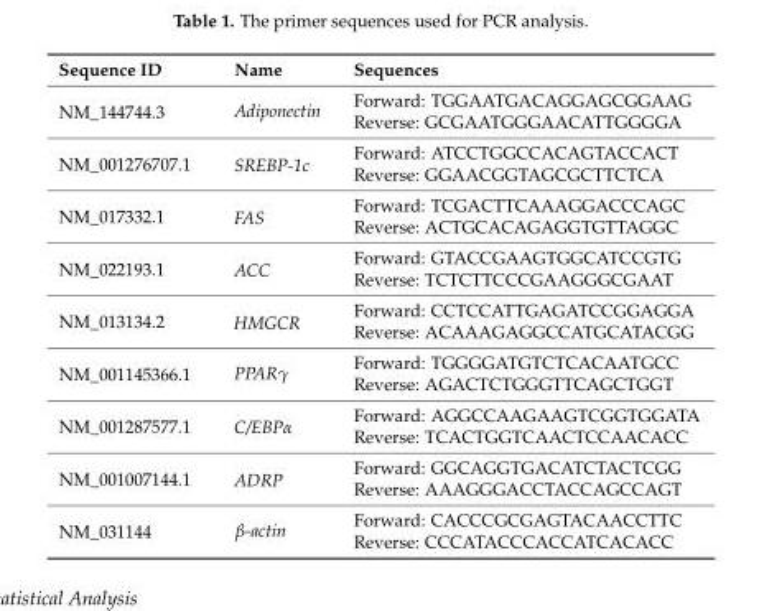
<table><thead><tr><td>Sequence ID</td><td>Name</td><td>Sequences</td></tr></thead><tbody><tr><td rowspan="2">NM_144744.3</td><td rowspan="2">Adiponectin</td><td>Forward: TGGAATGACAGGAGCGGAAG</td></tr><tr><td>Reverse: GCGAATGGGAACATTGGGGA</td></tr><tr><td rowspan="2">NM_001276707.1</td><td rowspan="2">SREBP-1c</td><td>Forward: ATCCTGGCCACAGTACCACT</td></tr><tr><td>Reverse: GGAACGGTAGCGCTTCTCA</td></tr><tr><td rowspan="2">NM_017332.1</td><td rowspan="2">FAS</td><td>Forward: TCGACTTCAAAGGACCCAGC</td></tr><tr><td>Reverse: ACTGCACAGAGGTGTTAGGC</td></tr><tr><td rowspan="2">NM_022193.1</td><td rowspan="2">ACC</td><td>Forward: GTACCGAAGTGGCATCCGTG</td></tr><tr><td>Reverse: TCTCTTCCCGAAGGGCGAAT</td></tr><tr><td rowspan="2">NM_013134.2</td><td rowspan="2">HMGCR</td><td>Forward: CCTCCATTGAGATCCGGAGGA</td></tr><tr><td>Reverse: ACAAAGAGGCCATGCATACGG</td></tr><tr><td rowspan="2">NM_001145366.1</td><td rowspan="2">PPARγ</td><td>Forward: TGGGGATGTCTCACAATGCC</td></tr><tr><td>Reverse: AGACTCTGGGTTCAGCTGGT</td></tr><tr><td rowspan="2">NM_001287577.1</td><td rowspan="2">C/EBPα</td><td>Forward: AGGCCAAGAAGTCGGTGGATA</td></tr><tr><td>Reverse: TCACTGGTCAACTCCAACACC</td></tr><tr><td rowspan="2">NM_001007144.1</td><td rowspan="2">ADRP</td><td>Forward: GGCAGGTGACATCTACTCGG</td></tr><tr><td>Reverse: AAAGGGACCTACCAGCCAGT</td></tr><tr><td rowspan="2">NM_031144</td><td rowspan="2">β-actin</td><td>Forward: CACCCGCGAGTACAACCTTC</td></tr><tr><td>Reverse: CCCATACCCACCATCACACC</td></tr></tbody></table>